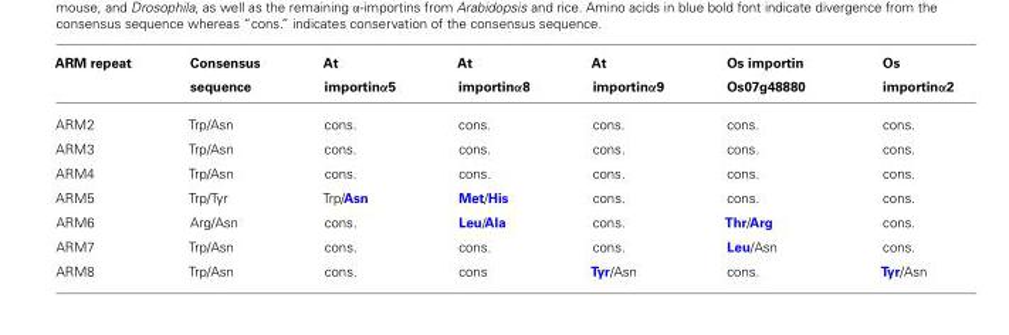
<table><thead><tr><td>ARM repeat</td><td>Consensus sequence</td><td>At importinα5</td><td>At importinα8</td><td>At importinα9</td><td>Os importin Os07g48880</td><td>Os importinα2</td></tr></thead><tbody><tr><td>ARM2</td><td>Trp/Asn</td><td>cons.</td><td>cons.</td><td>cons.</td><td>cons.</td><td>cons.</td></tr><tr><td>ARM3</td><td>Trp/Asn</td><td>cons.</td><td>cons.</td><td>cons.</td><td>cons.</td><td>cons.</td></tr><tr><td>ARM4</td><td>Trp/Asn</td><td>cons.</td><td>cons.</td><td>cons.</td><td>cons.</td><td>cons.</td></tr><tr><td>ARM5</td><td>Trp/Tyr</td><td>Trp/Asn</td><td>Met/His</td><td>cons.</td><td>cons.</td><td>cons.</td></tr><tr><td>ARM6</td><td>Arg/Asn</td><td>cons.</td><td>Leu/Ala</td><td>cons.</td><td>Thr/Arg</td><td>cons.</td></tr><tr><td>ARM7</td><td>Trp/Asn</td><td>cons.</td><td>cons.</td><td>cons.</td><td>Leu/Asn</td><td>cons.</td></tr><tr><td>ARM8</td><td>Trp/Asn</td><td>cons.</td><td>cons</td><td>Tyr/Asn</td><td>cons.</td><td>Tyr/Asn</td></tr></tbody></table>